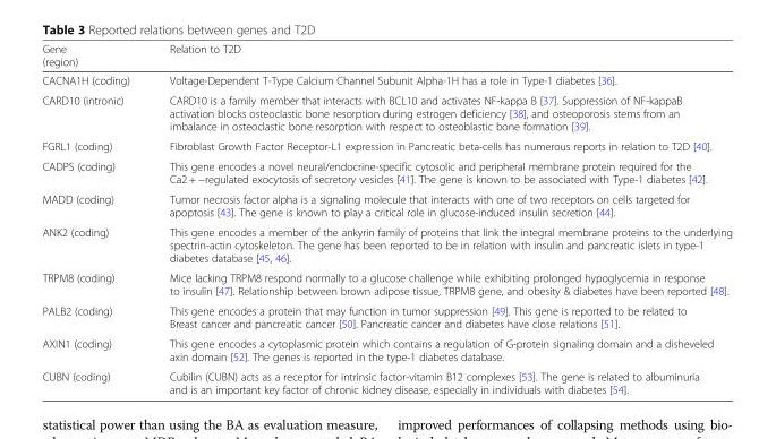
<table><thead><tr><td>Gene (region)</td><td>Relation to T2D</td></tr></thead><tbody><tr><td>CACNA1H (coding)</td><td>Voltage-Dependent T-Type Calcium Channel Subunit Alpha-1H has a role in Type-1 diabetes [36].</td></tr><tr><td>CARD10 (intronic)</td><td>CARD10 is a family member that interacts with BCL10 and activates NF-kappa B [37]. Suppression of NF-kappaB activation blocks osteoclastic bone resorption during estrogen deficiency [38], and osteoporosis stems from an imbalance in osteoclastic bone resorption with respect to osteoblastic bone formation [39].</td></tr><tr><td>FGRL1 (coding)</td><td>Fibroblast Growth Factor Receptor-L1 expression in Pancreatic beta-cells has numerous reports in relation to T2D [40].</td></tr><tr><td>CADPS (coding)</td><td>This gene encodes a novel neural/endocrine-specific cytosolic and peripheral membrane protein required for the Ca2 + −regulated exocytosis of secretory vesicles [41]. The gene is known to be associated with Type-1 diabetes [42].</td></tr><tr><td>MADD (coding)</td><td>Tumor necrosis factor alpha is a signaling molecule that interacts with one of two receptors on cells targeted for apoptosis [43]. The gene is known to play a critical role in glucose-induced insulin secretion [44].</td></tr><tr><td>ANK2 (coding)</td><td>This gene encodes a member of the ankyrin family of proteins that link the integral membrane proteins to the underlying spectrin-actin cytoskeleton. The gene has been reported to be in relation with insulin and pancreatic islets in type-1 diabetes database [45, 46].</td></tr><tr><td>TRPM8 (coding)</td><td>Mice lacking TRPM8 respond normally to a glucose challenge while exhibiting prolonged hypoglycemia in response to insulin [47]. Relationship between brown adipose tissue, TRPM8 gene, and obesity &amp; diabetes have been reported [48].</td></tr><tr><td>PALB2 (coding)</td><td>This gene encodes a protein that may function in tumor suppression [49]. This gene is reported to be related to Breast cancer and pancreatic cancer [50]. Pancreatic cancer and diabetes have close relations [51].</td></tr><tr><td>AXIN1 (coding)</td><td>This gene encodes a cytoplasmic protein which contains a regulation of G-protein signaling domain and a disheveled axin domain [52]. The genes is reported in the type-1 diabetes database.</td></tr><tr><td>CUBN (coding)</td><td>Cubilin (CUBN) acts as a receptor for intrinsic factor-vitamin B12 complexes [53]. The gene is related to albuminuria and is an important key factor of chronic kidney disease, especially in individuals with diabetes [54].</td></tr></tbody></table>